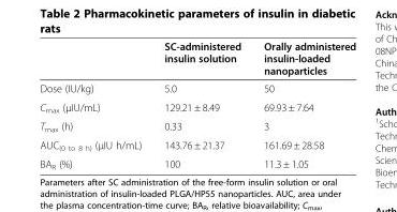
<table><thead><tr><td></td><td>SC-administered insulin solution</td><td>Orally administered insulin-loaded nanoparticles</td></tr></thead><tbody><tr><td>Dose (IU/kg)</td><td>5.0</td><td>50</td></tr><tr><td>C<sub>max</sub> (μIU/mL)</td><td>129.21 ± 8.49</td><td>69.93 ± 7.64</td></tr><tr><td>T<sub>max</sub> (h)</td><td>0.33</td><td>3</td></tr><tr><td>AUC<sub>(0 to 8 h)</sub> (μIU h/mL)</td><td>143.76 ± 21.37</td><td>161.69 ± 28.58</td></tr><tr><td>BA<sub>R</sub> (%)</td><td>100</td><td>11.3 ± 1.05</td></tr></tbody></table>